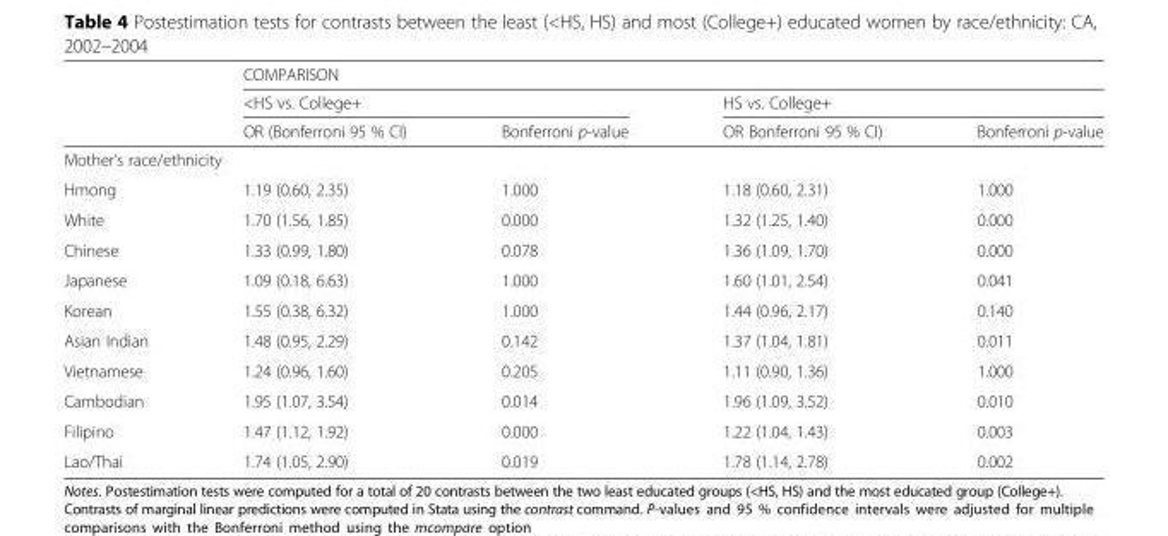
<table><thead><tr><td rowspan="3"></td><td colspan="4">COMPARISON</td></tr><tr><td colspan="2">&lt;HS vs. College+</td><td colspan="2">HS vs. College+</td></tr><tr><td>OR (Bonferroni 95 % CI)</td><td>Bonferroni p-value</td><td>OR Bonferroni 95 % CI)</td><td>Bonferroni p-value</td></tr></thead><tbody><tr><td colspan="5">Mother’s race/ethnicity</td></tr><tr><td>Hmong</td><td>1.19 (0.60, 2.35)</td><td>1.000</td><td>1.18 (0.60, 2.31)</td><td>1.000</td></tr><tr><td>White</td><td>1.70 (1.56, 1.85)</td><td>0.000</td><td>1.32 (1.25, 1.40)</td><td>0.000</td></tr><tr><td>Chinese</td><td>1.33 (0.99, 1.80)</td><td>0.078</td><td>1.36 (1.09, 1.70)</td><td>0.000</td></tr><tr><td>Japanese</td><td>1.09 (0.18, 6.63)</td><td>1.000</td><td>1.60 (1.01, 2.54)</td><td>0.041</td></tr><tr><td>Korean</td><td>1.55 (0.38, 6.32)</td><td>1.000</td><td>1.44 (0.96, 2.17)</td><td>0.140</td></tr><tr><td>Asian Indian</td><td>1.48 (0.95, 2.29)</td><td>0.142</td><td>1.37 (1.04, 1.81)</td><td>0.011</td></tr><tr><td>Vietnamese</td><td>1.24 (0.96, 1.60)</td><td>0.205</td><td>1.11 (0.90, 1.36)</td><td>1.000</td></tr><tr><td>Cambodian</td><td>1.95 (1.07, 3.54)</td><td>0.014</td><td>1.96 (1.09, 3.52)</td><td>0.010</td></tr><tr><td>Filipino</td><td>1.47 (1.12, 1.92)</td><td>0.000</td><td>1.22 (1.04, 1.43)</td><td>0.003</td></tr><tr><td>Lao/Thai</td><td>1.74 (1.05, 2.90)</td><td>0.019</td><td>1.78 (1.14, 2.78)</td><td>0.002</td></tr></tbody></table>